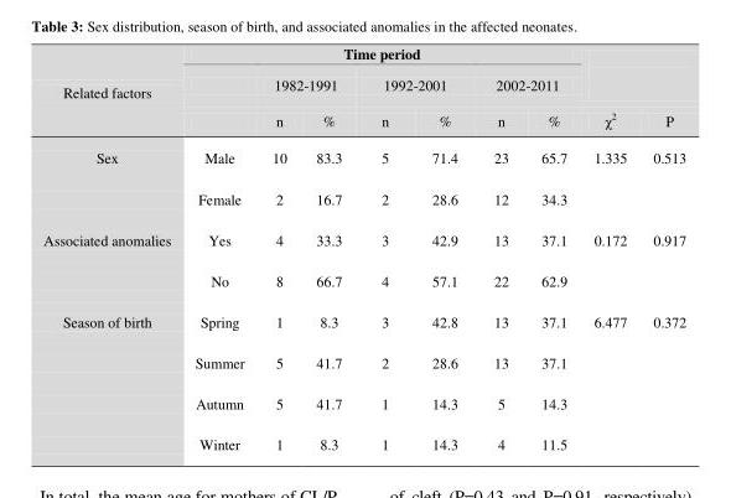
<table><thead><tr><td rowspan="3">Related factors</td><td colspan="7">Time period</td><td rowspan="3">χ<sup>2</sup></td><td rowspan="3">P</td></tr><tr><td rowspan="2"></td><td colspan="2">1982-1991</td><td colspan="2">1992-2001</td><td colspan="2">2002-2011</td></tr><tr><td>n</td><td>%</td><td>n</td><td>%</td><td>n</td><td>%</td></tr></thead><tbody><tr><td rowspan="2">Sex</td><td>Male</td><td>10</td><td>83.3</td><td>5</td><td>71.4</td><td>23</td><td>65.7</td><td>1.335</td><td>0.513</td></tr><tr><td>Female</td><td>2</td><td>16.7</td><td>2</td><td>28.6</td><td>12</td><td>34.3</td><td></td><td></td></tr><tr><td rowspan="2">Associated anomalies</td><td>Yes</td><td>4</td><td>33.3</td><td>3</td><td>42.9</td><td>13</td><td>37.1</td><td>0.172</td><td>0.917</td></tr><tr><td>No</td><td>8</td><td>66.7</td><td>4</td><td>57.1</td><td>22</td><td>62.9</td><td></td><td></td></tr><tr><td rowspan="4">Season of birth</td><td>Spring</td><td>1</td><td>8.3</td><td>3</td><td>42.8</td><td>13</td><td>37.1</td><td>6.477</td><td>0.372</td></tr><tr><td>Summer</td><td>5</td><td>41.7</td><td>2</td><td>28.6</td><td>13</td><td>37.1</td><td></td><td></td></tr><tr><td>Autumn</td><td>5</td><td>41.7</td><td>1</td><td>14.3</td><td>5</td><td>14.3</td><td></td><td></td></tr><tr><td>Winter</td><td>1</td><td>8.3</td><td>1</td><td>14.3</td><td>4</td><td>11.5</td><td></td><td></td></tr></tbody></table>